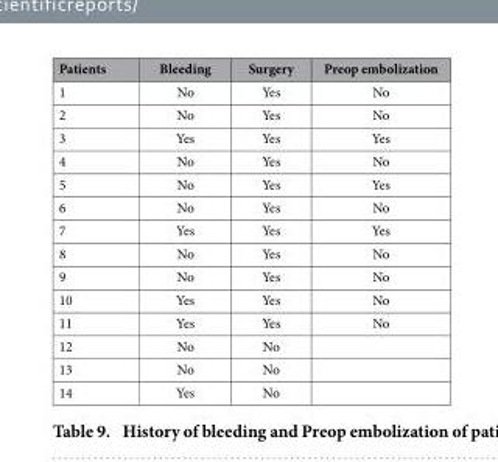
<table><thead><tr><td>Patients</td><td>Bleeding</td><td>Surgery</td><td>Preop embolization</td></tr></thead><tbody><tr><td>1</td><td>No</td><td>Yes</td><td>No</td></tr><tr><td>2</td><td>No</td><td>Yes</td><td>No</td></tr><tr><td>3</td><td>Yes</td><td>Yes</td><td>Yes</td></tr><tr><td>4</td><td>No</td><td>Yes</td><td>No</td></tr><tr><td>5</td><td>No</td><td>Yes</td><td>Yes</td></tr><tr><td>6</td><td>No</td><td>Yes</td><td>No</td></tr><tr><td>7</td><td>Yes</td><td>Yes</td><td>Yes</td></tr><tr><td>8</td><td>No</td><td>Yes</td><td>No</td></tr><tr><td>9</td><td>No</td><td>Yes</td><td>No</td></tr><tr><td>10</td><td>Yes</td><td>Yes</td><td>No</td></tr><tr><td>11</td><td>Yes</td><td>Yes</td><td>No</td></tr><tr><td>12</td><td>No</td><td>No</td><td></td></tr><tr><td>13</td><td>No</td><td>No</td><td></td></tr><tr><td>14</td><td>Yes</td><td>No</td><td></td></tr></tbody></table>